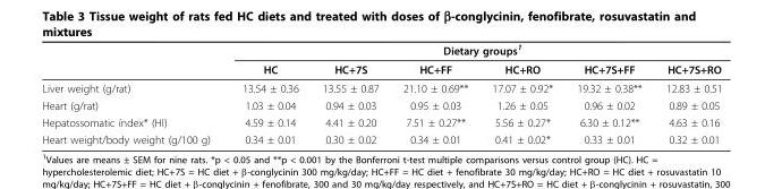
<table><thead><tr><td rowspan="2"></td><td colspan="6">Dietary groups<sup>1</sup></td></tr><tr><td>HC</td><td>HC+7S</td><td>HC+FF</td><td>HC+RO</td><td>HC+7S+FF</td><td>HC+7S+RO</td></tr></thead><tbody><tr><td>Liver weight (g/rat)</td><td>13.54 ± 0.36</td><td>13.55 ± 0.87</td><td>21.10 ± 0.69**</td><td>17.07 ± 0.92*</td><td>19.32 ± 0.38**</td><td>12.83 ± 0.51</td></tr><tr><td>Heart (g/rat)</td><td>1.03 ± 0.04</td><td>0.94 ± 0.03</td><td>0.95 ± 0.03</td><td>1.26 ± 0.05</td><td>0.96 ± 0.02</td><td>0.89 ± 0.05</td></tr><tr><td>Hepatossomatic índex* (HI)</td><td>4.59 ± 0.14</td><td>4.41 ± 0.20</td><td>7.51 ± 0.27**</td><td>5.56 ± 0.27*</td><td>6.30 ± 0.12**</td><td>4.63 ± 0.16</td></tr><tr><td>Heart weight/body weight (g/100 g)</td><td>0.34 ± 0.01</td><td>0.30 ± 0.02</td><td>0.34 ± 0.01</td><td>0.41 ± 0.02*</td><td>0.33 ± 0.01</td><td>0.32 ± 0.01</td></tr></tbody></table>